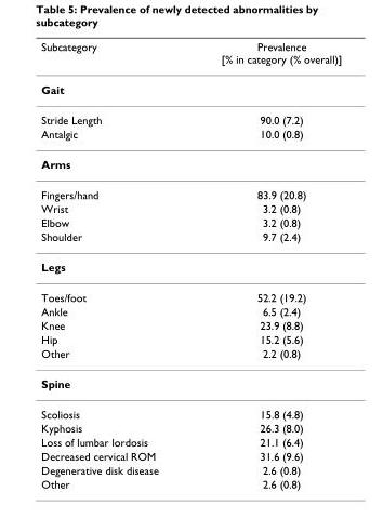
<table><thead><tr><td>Subcategory</td><td>Prevalence [% in category (% overall)]</td></tr></thead><tbody><tr><td colspan="2">Gait</td></tr><tr><td>Stride Length</td><td>90.0 (7.2)</td></tr><tr><td>Antalgic</td><td>10.0 (0.8)</td></tr><tr><td colspan="2">Arms</td></tr><tr><td>Fingers/hand</td><td>83.9 (20.8)</td></tr><tr><td>Wrist</td><td>3.2 (0.8)</td></tr><tr><td>Elbow</td><td>3.2 (0.8)</td></tr><tr><td>Shoulder</td><td>9.7 (2.4)</td></tr><tr><td colspan="2">Legs</td></tr><tr><td>Toes/foot</td><td>52.2 (19.2)</td></tr><tr><td>Ankle</td><td>6.5 (2.4)</td></tr><tr><td>Knee</td><td>23.9 (8.8)</td></tr><tr><td>Hip</td><td>15.2 (5.6)</td></tr><tr><td>Other</td><td>2.2 (0.8)</td></tr><tr><td colspan="2">Spine</td></tr><tr><td>Scoliosis</td><td>15.8 (4.8)</td></tr><tr><td>Kyphosis</td><td>26.3 (8.0)</td></tr><tr><td>Loss of lumbar lordosis</td><td>21.1 (6.4)</td></tr><tr><td>Decreased cervical ROM</td><td>31.6 (9.6)</td></tr><tr><td>Degenerative disk disease</td><td>2.6 (0.8)</td></tr><tr><td>Other</td><td>2.6 (0.8)</td></tr></tbody></table>